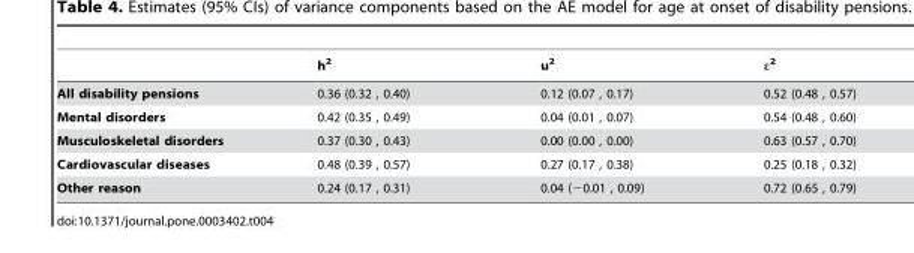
<table><thead><tr><td></td><td>h<sup>2</sup></td><td>u<sup>2</sup></td><td>ε<sup>2</sup></td></tr></thead><tbody><tr><td>All disability pensions</td><td>0.36 (0.32 , 0.40)</td><td>0.12 (0.07 , 0.17)</td><td>0.52 (0.48 , 0.57)</td></tr><tr><td>Mental disorders</td><td>0.42 (0.35 , 0.49)</td><td>0.04 (0.01 , 0.07)</td><td>0.54 (0.48 , 0.60)</td></tr><tr><td>Musculoskeletal disorders</td><td>0.37 (0.30 , 0.43)</td><td>0.00 (0.00 , 0.00)</td><td>0.63 (0.57 , 0.70)</td></tr><tr><td>Cardiovascular diseases</td><td>0.48 (0.39 , 0.57)</td><td>0.27 (0.17 , 0.38)</td><td>0.25 (0.18 , 0.32)</td></tr><tr><td>Other reason</td><td>0.24 (0.17 , 0.31)</td><td>0.04 (−0.01 , 0.09)</td><td>0.72 (0.65 , 0.79)</td></tr></tbody></table>